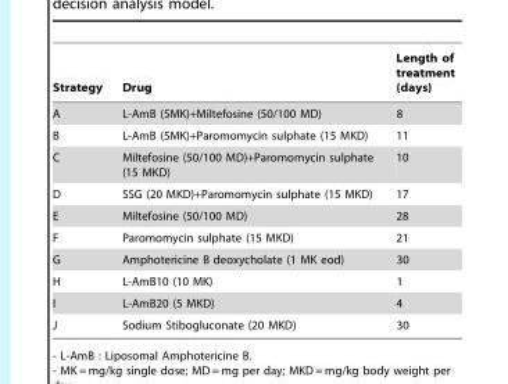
<table><thead><tr><td>Strategy</td><td>Drug</td><td>Length of treatment (days)</td></tr></thead><tbody><tr><td>A</td><td>L-AmB (5MK)+Miltefosine (50/100 MD)</td><td>8</td></tr><tr><td>B</td><td>L-AmB (5MK)+Paromomycin sulphate (15 MKD)</td><td>11</td></tr><tr><td>C</td><td>Miltefosine (50/100 MD)+Paromomycin sulphate (15 MKD)</td><td>10</td></tr><tr><td>D</td><td>SSG (20 MKD)+Paromomycin sulphate (15 MKD)</td><td>17</td></tr><tr><td>E</td><td>Miltefosine (50/100 MD)</td><td>28</td></tr><tr><td>F</td><td>Paromomycin sulphate (15 MKD)</td><td>21</td></tr><tr><td>G</td><td>Amphotericine B deoxycholate (1 MK eod)</td><td>30</td></tr><tr><td>H</td><td>L-AmB10 (10 MK)</td><td>1</td></tr><tr><td>I</td><td>L-AmB20 (5 MKD)</td><td>4</td></tr><tr><td>J</td><td>Sodium Stibogluconate (20 MKD)</td><td>30</td></tr></tbody></table>